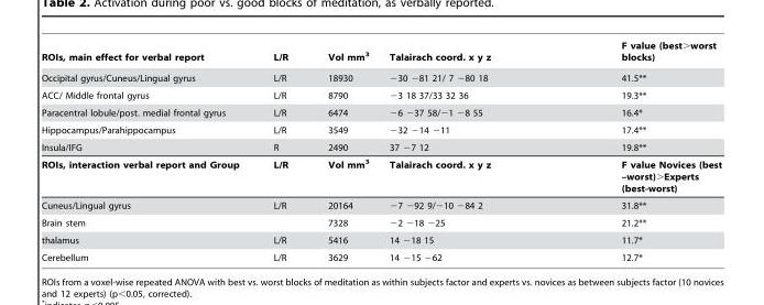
<table><thead><tr><td>ROIs, main effect for verbal report</td><td>L/R</td><td>Vol mm<sup>3</sup></td><td>Talairach coord. x y z</td><td>F value (best&gt;worst blocks)</td></tr></thead><tbody><tr><td>Occipital gyrus/Cuneus/Lingual gyrus</td><td>L/R</td><td>18930</td><td>−30 −81 21/ 7 −80 18</td><td>41.5**</td></tr><tr><td>ACC/ Middle frontal gyrus</td><td>L/R</td><td>8790</td><td>−3 18 37/33 32 36</td><td>19.3**</td></tr><tr><td>Paracentral lobule/post. medial frontal gyrus</td><td>L/R</td><td>6474</td><td>−6 −37 58/−1 −8 55</td><td>16.4*</td></tr><tr><td>Hippocampus/Parahippocampus</td><td>L/R</td><td>3549</td><td>−32 −14 −11</td><td>17.4**</td></tr><tr><td>Insula/IFG</td><td>R</td><td>2490</td><td>37 −7 12</td><td>19.8**</td></tr><tr><td>ROIs, interaction verbal report and Group</td><td>L/R</td><td>Vol mm<sup>3</sup></td><td>Talairach coord. x y z</td><td>F value Novices (best –worst)&gt;Experts (best-worst)</td></tr><tr><td>Cuneus/Lingual gyrus</td><td>L/R</td><td>20164</td><td>−7 −92 9/−10 −84 2</td><td>31.8**</td></tr><tr><td>Brain stem</td><td></td><td>7328</td><td>−2 −18 −25</td><td>21.2**</td></tr><tr><td>thalamus</td><td>L/R</td><td>5416</td><td>14 −18 15</td><td>11.7*</td></tr><tr><td>Cerebellum</td><td>L/R</td><td>3629</td><td>14 −15 −62</td><td>12.7*</td></tr></tbody></table>